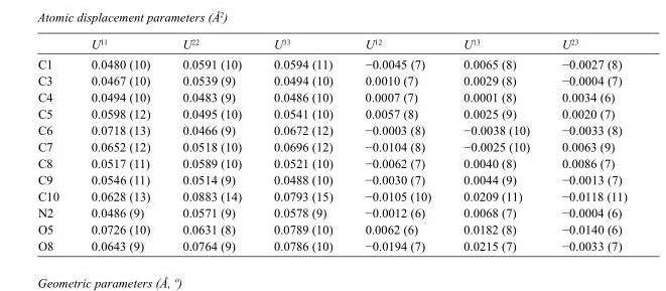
<table><thead><tr><td></td><td>U<sup>11</sup></td><td>U<sup>22</sup></td><td>U<sup>33</sup></td><td>U<sup>12</sup></td><td>U<sup>13</sup></td><td>U<sup>23</sup></td></tr></thead><tbody><tr><td>C1</td><td>0.0480 (10)</td><td>0.0591 (10)</td><td>0.0594 (11)</td><td>−0.0045 (7)</td><td>0.0065 (8)</td><td>−0.0027 (8)</td></tr><tr><td>C3</td><td>0.0467 (10)</td><td>0.0539 (9)</td><td>0.0494 (10)</td><td>0.0010 (7)</td><td>0.0029 (8)</td><td>−0.0004 (7)</td></tr><tr><td>C4</td><td>0.0494 (10)</td><td>0.0483 (9)</td><td>0.0486 (10)</td><td>0.0007 (7)</td><td>0.0001 (8)</td><td>0.0034 (6)</td></tr><tr><td>C5</td><td>0.0598 (12)</td><td>0.0495 (10)</td><td>0.0541 (10)</td><td>0.0057 (8)</td><td>0.0025 (9)</td><td>0.0020 (7)</td></tr><tr><td>C6</td><td>0.0718 (13)</td><td>0.0466 (9)</td><td>0.0672 (12)</td><td>−0.0003 (8)</td><td>−0.0038 (10)</td><td>−0.0033 (8)</td></tr><tr><td>C7</td><td>0.0652 (12)</td><td>0.0518 (10)</td><td>0.0696 (12)</td><td>−0.0104 (8)</td><td>−0.0025 (10)</td><td>0.0063 (9)</td></tr><tr><td>C8</td><td>0.0517 (11)</td><td>0.0589 (10)</td><td>0.0521 (10)</td><td>−0.0062 (7)</td><td>0.0040 (8)</td><td>0.0086 (7)</td></tr><tr><td>C9</td><td>0.0546 (11)</td><td>0.0514 (9)</td><td>0.0488 (10)</td><td>−0.0030 (7)</td><td>0.0044 (9)</td><td>−0.0013 (7)</td></tr><tr><td>C10</td><td>0.0628 (13)</td><td>0.0883 (14)</td><td>0.0793 (15)</td><td>−0.0105 (10)</td><td>0.0209 (11)</td><td>−0.0118 (11)</td></tr><tr><td>N2</td><td>0.0486 (9)</td><td>0.0571 (9)</td><td>0.0578 (9)</td><td>−0.0012 (6)</td><td>0.0068 (7)</td><td>−0.0004 (6)</td></tr><tr><td>O5</td><td>0.0726 (10)</td><td>0.0631 (8)</td><td>0.0789 (10)</td><td>0.0062 (6)</td><td>0.0182 (8)</td><td>−0.0140 (6)</td></tr><tr><td>O8</td><td>0.0643 (9)</td><td>0.0764 (9)</td><td>0.0786 (10)</td><td>−0.0194 (7)</td><td>0.0215 (7)</td><td>−0.0033 (7)</td></tr></tbody></table>